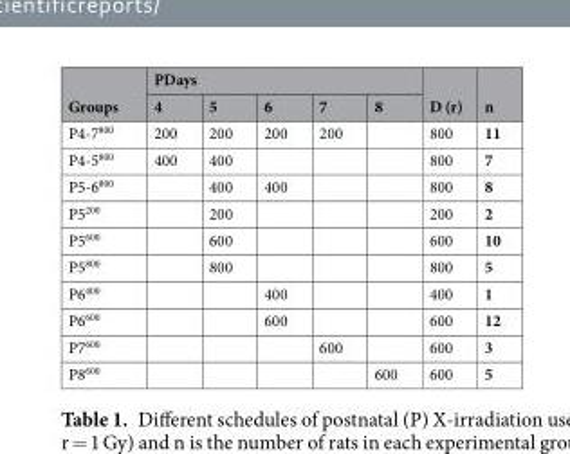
<table><thead><tr><td rowspan="2">Groups</td><td colspan="5">PDays</td><td rowspan="2">D (r)</td><td rowspan="2">n</td></tr><tr><td>4</td><td>5</td><td>6</td><td>7</td><td>8</td></tr></thead><tbody><tr><td>P4-7<sup>800</sup></td><td>200</td><td>200</td><td>200</td><td>200</td><td></td><td>800</td><td>11</td></tr><tr><td>P4-5<sup>800</sup></td><td>400</td><td>400</td><td></td><td></td><td></td><td>800</td><td>7</td></tr><tr><td>P5-6<sup>800</sup></td><td></td><td>400</td><td>400</td><td></td><td></td><td>800</td><td>8</td></tr><tr><td>P5<sup>200</sup></td><td></td><td>200</td><td></td><td></td><td></td><td>200</td><td>2</td></tr><tr><td>P5<sup>600</sup></td><td></td><td>600</td><td></td><td></td><td></td><td>600</td><td>10</td></tr><tr><td>P5<sup>800</sup></td><td></td><td>800</td><td></td><td></td><td></td><td>800</td><td>5</td></tr><tr><td>P6<sup>400</sup></td><td></td><td></td><td>400</td><td></td><td></td><td>400</td><td>1</td></tr><tr><td>P6<sup>600</sup></td><td></td><td></td><td>600</td><td></td><td></td><td>600</td><td>12</td></tr><tr><td>P7<sup>600</sup></td><td></td><td></td><td></td><td>600</td><td></td><td>600</td><td>3</td></tr><tr><td>P8<sup>600</sup></td><td></td><td></td><td></td><td></td><td>600</td><td>600</td><td>5</td></tr></tbody></table>